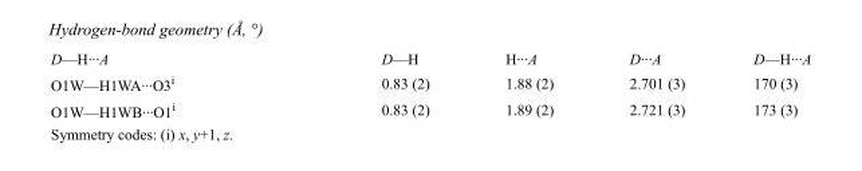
<table><tbody><tr><td>D—H···A</td><td>D—H</td><td>H···A</td><td>D···A</td><td>D—H···A</td></tr><tr><td>O1W—H1WA···O3<sup>i</sup></td><td>0.83 (2)</td><td>1.88 (2)</td><td>2.701 (3)</td><td>170 (3)</td></tr><tr><td>O1W—H1WB···O1<sup>i</sup></td><td>0.83 (2)</td><td>1.89 (2)</td><td>2.721 (3)</td><td>173 (3)</td></tr></tbody></table>